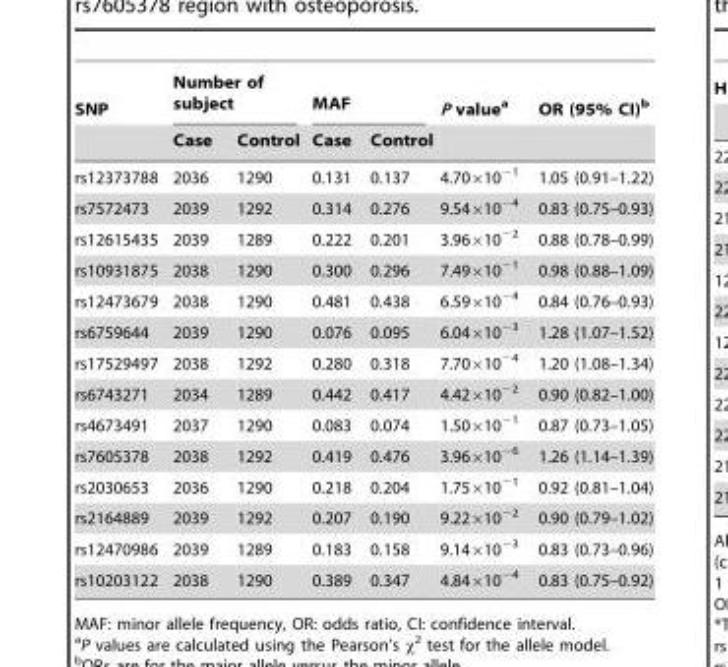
<table><thead><tr><td rowspan="2">SNP</td><td colspan="2">Number of subject</td><td colspan="2">MAF</td><td rowspan="2">P value<sup>a</sup></td><td rowspan="2">OR (95% CI)<sup>b</sup></td></tr><tr><td>Case</td><td>Control</td><td>Case</td><td>Control</td></tr></thead><tbody><tr><td>rs12373788</td><td>2036</td><td>1290</td><td>0.131</td><td>0.137</td><td>4.70×10<sup>−1</sup></td><td>1.05 (0.91–1.22)</td></tr><tr><td>rs7572473</td><td>2039</td><td>1292</td><td>0.314</td><td>0.276</td><td>9.54×10<sup>−4</sup></td><td>0.83 (0.75–0.93)</td></tr><tr><td>rs12615435</td><td>2039</td><td>1289</td><td>0.222</td><td>0.201</td><td>3.96×10<sup>−2</sup></td><td>0.88 (0.78–0.99)</td></tr><tr><td>rs10931875</td><td>2038</td><td>1290</td><td>0.300</td><td>0.296</td><td>7.49×10<sup>−1</sup></td><td>0.98 (0.88–1.09)</td></tr><tr><td>rs12473679</td><td>2038</td><td>1290</td><td>0.481</td><td>0.438</td><td>6.59×10<sup>−4</sup></td><td>0.84 (0.76–0.93)</td></tr><tr><td>rs6759644</td><td>2039</td><td>1290</td><td>0.076</td><td>0.095</td><td>6.04×10<sup>−3</sup></td><td>1.28 (1.07–1.52)</td></tr><tr><td>rs17529497</td><td>2038</td><td>1292</td><td>0.280</td><td>0.318</td><td>7.70×10<sup>−4</sup></td><td>1.20 (1.08–1.34)</td></tr><tr><td>rs6743271</td><td>2034</td><td>1289</td><td>0.442</td><td>0.417</td><td>4.42×10<sup>−2</sup></td><td>0.90 (0.82–1.00)</td></tr><tr><td>rs4673491</td><td>2037</td><td>1290</td><td>0.083</td><td>0.074</td><td>1.50×10<sup>−1</sup></td><td>0.87 (0.73–1.05)</td></tr><tr><td>rs7605378</td><td>2038</td><td>1292</td><td>0.419</td><td>0.476</td><td>3.96×10<sup>−6</sup></td><td>1.26 (1.14–1.39)</td></tr><tr><td>rs2030653</td><td>2036</td><td>1290</td><td>0.218</td><td>0.204</td><td>1.75×10<sup>−1</sup></td><td>0.92 (0.81–1.04)</td></tr><tr><td>rs2164889</td><td>2039</td><td>1292</td><td>0.207</td><td>0.190</td><td>9.22×10<sup>−2</sup></td><td>0.90 (0.79–1.02)</td></tr><tr><td>rs12470986</td><td>2039</td><td>1289</td><td>0.183</td><td>0.158</td><td>9.14×10<sup>−3</sup></td><td>0.83 (0.73–0.96)</td></tr><tr><td>rs10203122</td><td>2038</td><td>1290</td><td>0.389</td><td>0.347</td><td>4.84×10<sup>−4</sup></td><td>0.83 (0.75–0.92)</td></tr></tbody></table>